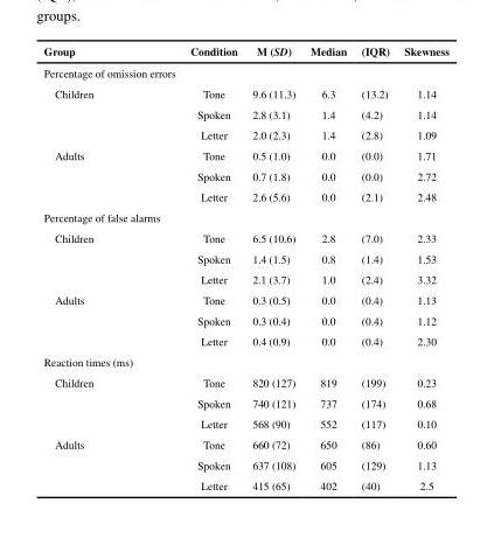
<table><thead><tr><td>Group</td><td>Condition</td><td>M (SD)</td><td>Median</td><td>(IQR)</td><td>Skewness</td></tr></thead><tbody><tr><td colspan="6">Percentage of omission errors</td></tr><tr><td rowspan="3">Children</td><td>Tone</td><td>9.6 (11.3)</td><td>6.3</td><td>(13.2)</td><td>1.14</td></tr><tr><td>Spoken</td><td>2.8 (3.1)</td><td>1.4</td><td>(4.2)</td><td>1.14</td></tr><tr><td>Letter</td><td>2.0 (2.3)</td><td>1.4</td><td>(2.8)</td><td>1.09</td></tr><tr><td rowspan="3">Adults</td><td>Tone</td><td>0.5 (1.0)</td><td>0.0</td><td>(0.0)</td><td>1.71</td></tr><tr><td>Spoken</td><td>0.7 (1.8)</td><td>0.0</td><td>(0.0)</td><td>2.72</td></tr><tr><td>Letter</td><td>2.6 (5.6)</td><td>0.0</td><td>(2.1)</td><td>2.48</td></tr><tr><td colspan="6">Percentage of false alarms</td></tr><tr><td rowspan="3">Children</td><td>Tone</td><td>6.5 (10.6)</td><td>2.8</td><td>(7.0)</td><td>2.33</td></tr><tr><td>Spoken</td><td>1.4 (1.5)</td><td>0.8</td><td>(1.4)</td><td>1.53</td></tr><tr><td>Letter</td><td>2.1 (3.7)</td><td>1.0</td><td>(2.4)</td><td>3.32</td></tr><tr><td rowspan="3">Adults</td><td>Tone</td><td>0.3 (0.5)</td><td>0.0</td><td>(0.4)</td><td>1.13</td></tr><tr><td>Spoken</td><td>0.3 (0.4)</td><td>0.0</td><td>(0.4)</td><td>1.12</td></tr><tr><td>Letter</td><td>0.4 (0.9)</td><td>0.0</td><td>(0.4)</td><td>2.30</td></tr><tr><td colspan="6">Reaction times (ms)</td></tr><tr><td rowspan="3">Children</td><td>Tone</td><td>820 (127)</td><td>819</td><td>(199)</td><td>0.23</td></tr><tr><td>Spoken</td><td>740 (121)</td><td>737</td><td>(174)</td><td>0.68</td></tr><tr><td>Letter</td><td>568 (90)</td><td>552</td><td>(117)</td><td>0.10</td></tr><tr><td rowspan="3">Adults</td><td>Tone</td><td>660 (72)</td><td>650</td><td>(86)</td><td>0.60</td></tr><tr><td>Spoken</td><td>637 (108)</td><td>605</td><td>(129)</td><td>1.13</td></tr><tr><td>Letter</td><td>415 (65)</td><td>402</td><td>(40)</td><td>2.5</td></tr></tbody></table>